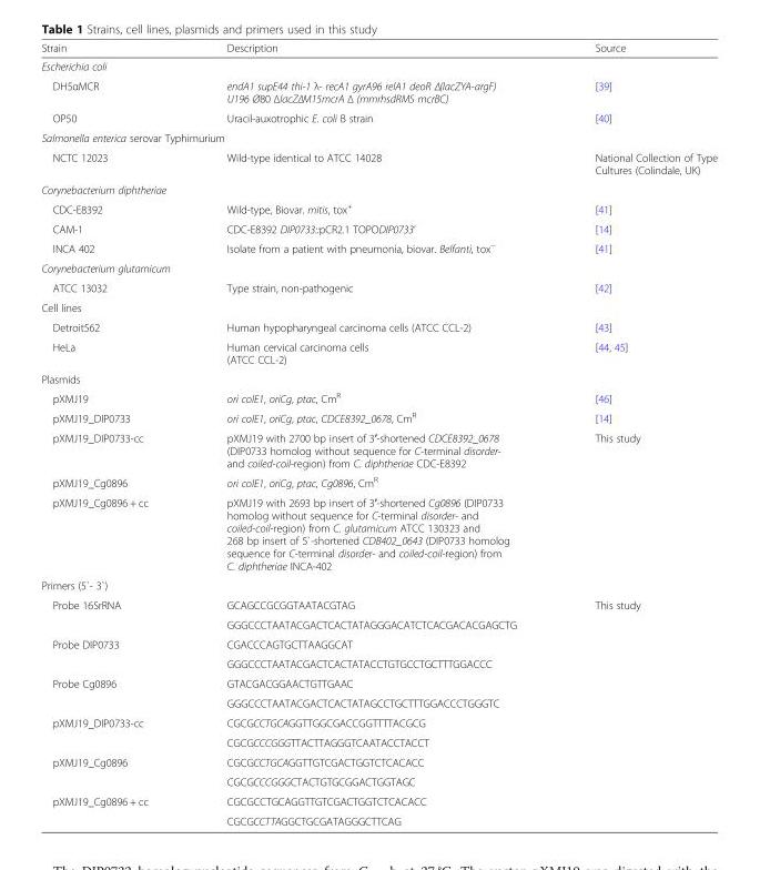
<table><thead><tr><td>Strain</td><td>Description</td><td>Source</td></tr></thead><tbody><tr><td colspan="3">Escherichia coli</td></tr><tr><td>DH5αMCR</td><td>endA1 supE44 thi-1 λ- recA1 gyrA96 relA1 deoR Δ(lacZYA-argF) U196 Ø80 ΔlacZΔM15mcrA Δ (mmrhsdRMS mcrBC)</td><td>[39]</td></tr><tr><td>OP50</td><td>Uracil-auxotrophic E. coli B strain</td><td>[40]</td></tr><tr><td colspan="3">Salmonella enterica serovar Typhimurium</td></tr><tr><td>NCTC 12023</td><td>Wild-type identical to ATCC 14028</td><td>National Collection of Type Cultures (Colindale, UK)</td></tr><tr><td colspan="3">Corynebacterium diphtheriae</td></tr><tr><td>CDC-E8392</td><td>Wild-type, Biovar. mitis, tox<sup>+</sup></td><td>[41]</td></tr><tr><td>CAM-1</td><td>CDC-E8392 DIP0733::pCR2.1 TOPODIP0733’</td><td>[14]</td></tr><tr><td>INCA 402</td><td>Isolate from a patient with pneumonia, biovar. Belfanti, tox<sup>−</sup></td><td>[41]</td></tr><tr><td colspan="3">Corynebacterium glutamicum</td></tr><tr><td>ATCC 13032</td><td>Type strain, non-pathogenic</td><td>[42]</td></tr><tr><td colspan="3">Cell lines</td></tr><tr><td>Detroit562</td><td>Human hypopharyngeal carcinoma cells (ATCC CCL-2)</td><td>[43]</td></tr><tr><td>HeLa</td><td>Human cervical carcinoma cells (ATCC CCL-2)</td><td>[44, 45]</td></tr><tr><td colspan="3">Plasmids</td></tr><tr><td>pXMJ19</td><td>ori colE1, oriCg, ptac, Cm<sup>R</sup></td><td>[46]</td></tr><tr><td>pXMJ19_DIP0733</td><td>ori colE1, oriCg, ptac, CDCE8392_0678, Cm<sup>R</sup></td><td>[14]</td></tr><tr><td>pXMJ19_DIP0733-cc</td><td>pXMJ19 with 2700 bp insert of 3′-shortened CDCE8392_0678 (DIP0733 homolog without sequence for C-terminal disorder- and coiled-coil-region) from C. diphtheriae CDC-E8392</td><td rowspan="3">This study</td></tr><tr><td>pXMJ19_Cg0896</td><td>ori colE1, oriCg, ptac, Cg0896, Cm<sup>R</sup></td></tr><tr><td>pXMJ19_Cg0896 + cc</td><td>pXMJ19 with 2693 bp insert of 3′-shortened Cg0896 (DIP0733 homolog without sequence for C-terminal disorder- and coiled-coil-region) from C. glutamicum ATCC 130323 and 268 bp insert of 5`-shortened CDB402_0643 (DIP0733 homolog sequence for C-terminal disorder- and coiled-coil-region) from C. diphtheriae INCA-402</td></tr><tr><td colspan="3">Primers (5`- 3`)</td></tr><tr><td rowspan="2">Probe 16SrRNA</td><td>GCAGCCGCGGTAATACGTAG</td><td rowspan="12">This study</td></tr><tr><td>GGGCCCTAATACGACTCACTATAGGGACATCTCACGACACGAGCTG</td></tr><tr><td rowspan="2">Probe DIP0733</td><td>CGACCCAGTGCTTAAGGCAT</td></tr><tr><td>GGGCCCTAATACGACTCACTATACCTGTGCCTGCTTTGGACCC</td></tr><tr><td rowspan="2">Probe Cg0896</td><td>GTACGACGGAACTGTTGAAC</td></tr><tr><td>GGGCCCTAATACGACTCACTATAGCCTGCTTTGGACCCTGGGTC</td></tr><tr><td rowspan="2">pXMJ19_DIP0733-cc</td><td>CGCGCCTGCAGGTTGGCGACCGGTTTTACGCG</td></tr><tr><td>CGCGCCCGGGTTACTTAGGGTCAATACCTACCT</td></tr><tr><td rowspan="2">pXMJ19_Cg0896</td><td>CGCGCCTGCAGGTTGTCGACTGGTCTCACACC</td></tr><tr><td>CGCGCCCGGGCTACTGTGCGGACTGGTAGC</td></tr><tr><td rowspan="2">pXMJ19_Cg0896 + cc</td><td>CGCGCCTGCAGGTTGTCGACTGGTCTCACACC</td></tr><tr><td>CGCGCCTTAGGCTGCGATAGGGCTTCAG</td></tr></tbody></table>